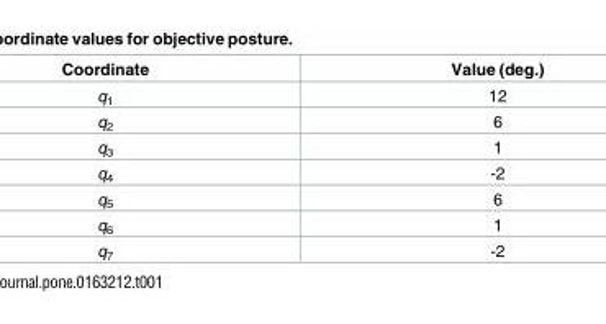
<table><thead><tr><td>Coordinate</td><td>Value (deg.)</td></tr></thead><tbody><tr><td>q<sub>1</sub></td><td>12</td></tr><tr><td>q<sub>2</sub></td><td>6</td></tr><tr><td>q<sub>3</sub></td><td>1</td></tr><tr><td>q<sub>4</sub></td><td>-2</td></tr><tr><td>q<sub>5</sub></td><td>6</td></tr><tr><td>q<sub>6</sub></td><td>1</td></tr><tr><td>q<sub>7</sub></td><td>-2</td></tr></tbody></table>